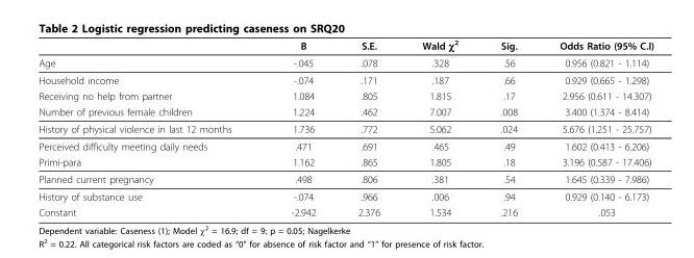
<table><thead><tr><td></td><td>B</td><td>S.E.</td><td>Wald χ<sup>2</sup></td><td>Sig.</td><td>Odds Ratio (95% C.I)</td></tr></thead><tbody><tr><td>Age</td><td>-.045</td><td>.078</td><td>.328</td><td>.56</td><td>0.956 (0.821 - 1.114)</td></tr><tr><td>Household income</td><td>-.074</td><td>.171</td><td>.187</td><td>.66</td><td>0.929 (0.665 - 1.298)</td></tr><tr><td>Receiving no help from partner</td><td>1.084</td><td>.805</td><td>1.815</td><td>.17</td><td>2.956 (0.611 - 14.307)</td></tr><tr><td>Number of previous female children</td><td>1.224</td><td>.462</td><td>7.007</td><td>.008</td><td>3.400 (1.374 - 8.414)</td></tr><tr><td>History of physical violence in last 12 months</td><td>1.736</td><td>.772</td><td>5.062</td><td>.024</td><td>5.676 (1.251 - 25.757)</td></tr><tr><td>Perceived difficulty meeting daily needs</td><td>.471</td><td>.691</td><td>.465</td><td>.49</td><td>1.602 (0.413 - 6.206)</td></tr><tr><td>Primi-para</td><td>1.162</td><td>.865</td><td>1.805</td><td>.18</td><td>3.196 (0.587 - 17.406)</td></tr><tr><td>Planned current pregnancy</td><td>.498</td><td>.806</td><td>.381</td><td>.54</td><td>1.645 (0.339 - 7.986)</td></tr><tr><td>History of substance use</td><td>-.074</td><td>.966</td><td>.006</td><td>.94</td><td>0.929 (0.140 - 6.173)</td></tr><tr><td>Constant</td><td>-2.942</td><td>2.376</td><td>1.534</td><td>.216</td><td>.053</td></tr></tbody></table>